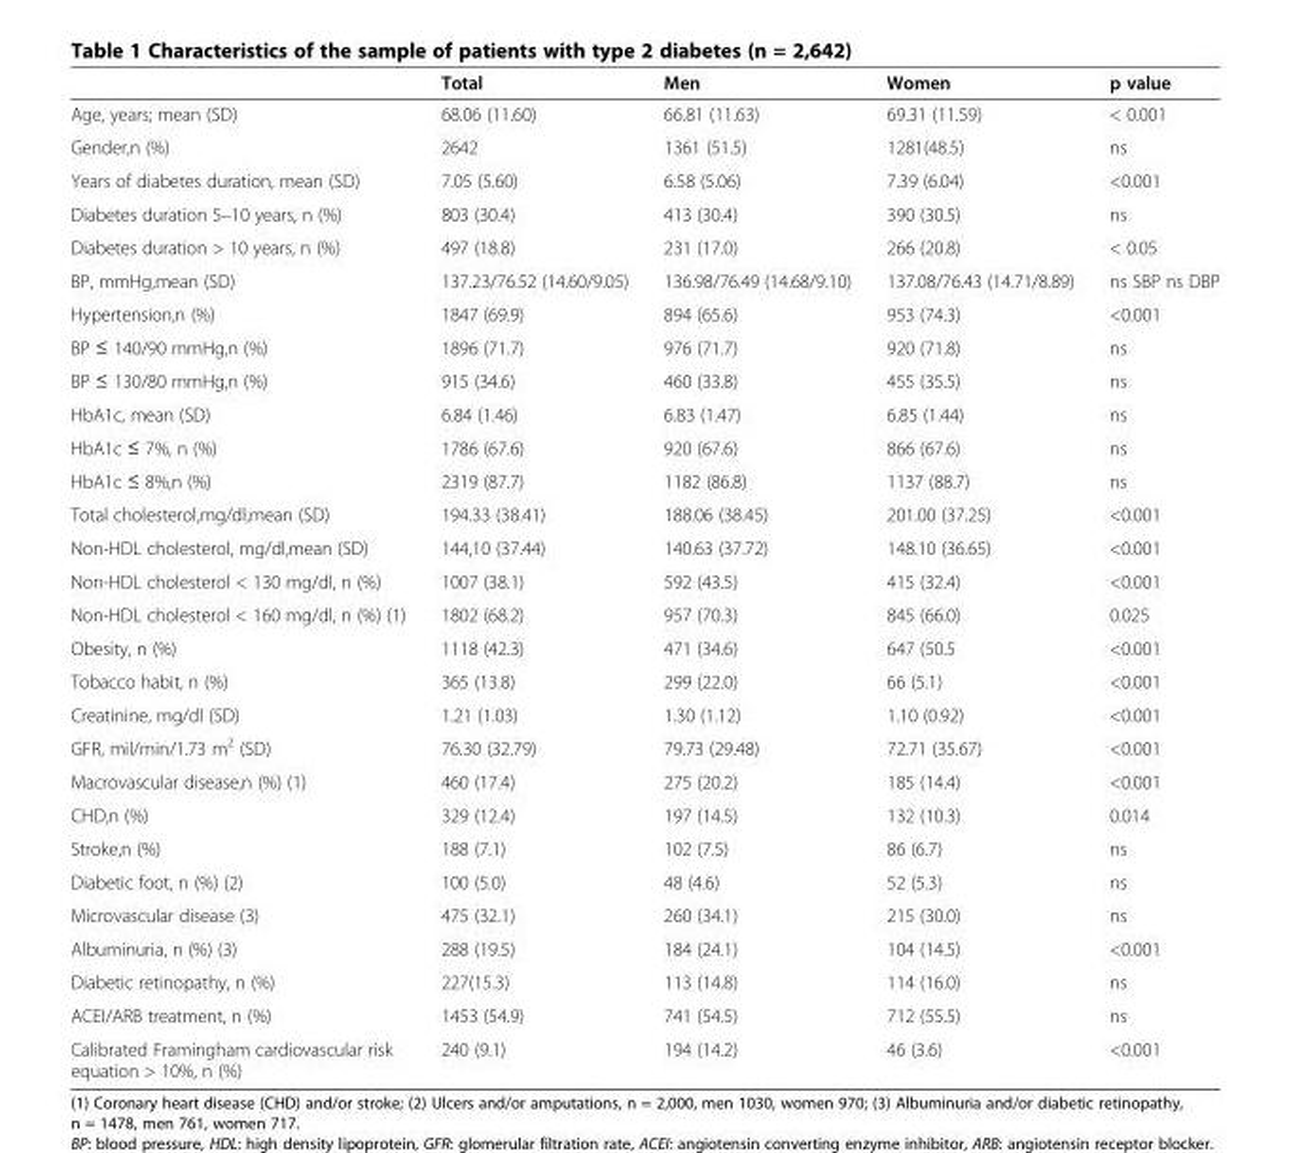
<table><thead><tr><td></td><td>Total</td><td>Men</td><td>Women</td><td>p value</td></tr></thead><tbody><tr><td>Age, years; mean (SD)</td><td>68.06 (11.60)</td><td>66.81 (11.63)</td><td>69.31 (11.59)</td><td>&lt; 0.001</td></tr><tr><td>Gender,n (%)</td><td>2642</td><td>1361 (51.5)</td><td>1281(48.5)</td><td>ns</td></tr><tr><td>Years of diabetes duration, mean (SD)</td><td>7.05 (5.60)</td><td>6.58 (5.06)</td><td>7.39 (6.04)</td><td>&lt;0.001</td></tr><tr><td>Diabetes duration 5–10 years, n (%)</td><td>803 (30.4)</td><td>413 (30.4)</td><td>390 (30.5)</td><td>ns</td></tr><tr><td>Diabetes duration &gt; 10 years, n (%)</td><td>497 (18.8)</td><td>231 (17.0)</td><td>266 (20.8)</td><td>&lt; 0.05</td></tr><tr><td>BP, mmHg,mean (SD)</td><td>137.23/76.52 (14.60/9.05)</td><td>136.98/76.49 (14.68/9.10)</td><td>137.08/76.43 (14.71/8.89)</td><td>ns SBP ns DBP</td></tr><tr><td>Hypertension,n (%)</td><td>1847 (69.9)</td><td>894 (65.6)</td><td>953 (74.3)</td><td>&lt;0.001</td></tr><tr><td>BP ≤ 140/90 mmHg,n (%)</td><td>1896 (71.7)</td><td>976 (71.7)</td><td>920 (71.8)</td><td>ns</td></tr><tr><td>BP ≤ 130/80 mmHg,n (%)</td><td>915 (34.6)</td><td>460 (33.8)</td><td>455 (35.5)</td><td>ns</td></tr><tr><td>HbA1c, mean (SD)</td><td>6.84 (1.46)</td><td>6.83 (1.47)</td><td>6.85 (1.44)</td><td>ns</td></tr><tr><td>HbA1c ≤ 7%, n (%)</td><td>1786 (67.6)</td><td>920 (67.6)</td><td>866 (67.6)</td><td>ns</td></tr><tr><td>HbA1c ≤ 8%,n (%)</td><td>2319 (87.7)</td><td>1182 (86.8)</td><td>1137 (88.7)</td><td>ns</td></tr><tr><td>Total cholesterol,mg/dl,mean (SD)</td><td>194.33 (38.41)</td><td>188.06 (38.45)</td><td>201.00 (37.25)</td><td>&lt;0.001</td></tr><tr><td>Non-HDL cholesterol, mg/dl,mean (SD)</td><td>144,10 (37.44)</td><td>140.63 (37.72)</td><td>148.10 (36.65)</td><td>&lt;0.001</td></tr><tr><td>Non-HDL cholesterol &lt; 130 mg/dl, n (%)</td><td>1007 (38.1)</td><td>592 (43.5)</td><td>415 (32.4)</td><td>&lt;0.001</td></tr><tr><td>Non-HDL cholesterol &lt; 160 mg/dl, n (%) (1)</td><td>1802 (68.2)</td><td>957 (70.3)</td><td>845 (66.0)</td><td>0.025</td></tr><tr><td>Obesity, n (%)</td><td>1118 (42.3)</td><td>471 (34.6)</td><td>647 (50.5</td><td>&lt;0.001</td></tr><tr><td>Tobacco habit, n (%)</td><td>365 (13.8)</td><td>299 (22.0)</td><td>66 (5.1)</td><td>&lt;0.001</td></tr><tr><td>Creatinine, mg/dl (SD)</td><td>1.21 (1.03)</td><td>1.30 (1.12)</td><td>1.10 (0.92)</td><td>&lt;0.001</td></tr><tr><td>GFR, mil/min/1.73 m<sup>2</sup> (SD)</td><td>76.30 (32.79)</td><td>79.73 (29.48)</td><td>72.71 (35.67)</td><td>&lt;0.001</td></tr><tr><td>Macrovascular disease,n (%) (1)</td><td>460 (17.4)</td><td>275 (20.2)</td><td>185 (14.4)</td><td>&lt;0.001</td></tr><tr><td>CHD,n (%)</td><td>329 (12.4)</td><td>197 (14.5)</td><td>132 (10.3)</td><td>0.014</td></tr><tr><td>Stroke,n (%)</td><td>188 (7.1)</td><td>102 (7.5)</td><td>86 (6.7)</td><td>ns</td></tr><tr><td>Diabetic foot, n (%) (2)</td><td>100 (5.0)</td><td>48 (4.6)</td><td>52 (5.3)</td><td>ns</td></tr><tr><td>Microvascular disease (3)</td><td>475 (32.1)</td><td>260 (34.1)</td><td>215 (30.0)</td><td>ns</td></tr><tr><td>Albuminuria, n (%) (3)</td><td>288 (19.5)</td><td>184 (24.1)</td><td>104 (14.5)</td><td>&lt;0.001</td></tr><tr><td>Diabetic retinopathy, n (%)</td><td>227(15.3)</td><td>113 (14.8)</td><td>114 (16.0)</td><td>ns</td></tr><tr><td>ACEI/ARB treatment, n (%)</td><td>1453 (54.9)</td><td>741 (54.5)</td><td>712 (55.5)</td><td>ns</td></tr><tr><td>Calibrated Framingham cardiovascular risk equation &gt; 10%, n (%)</td><td>240 (9.1)</td><td>194 (14.2)</td><td>46 (3.6)</td><td>&lt;0.001</td></tr></tbody></table>